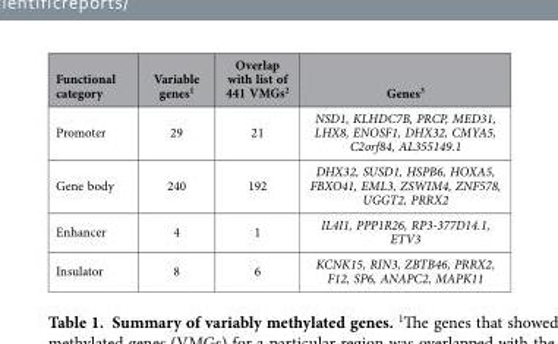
<table><thead><tr><td>Functional category</td><td>Variable genes<sup>1</sup></td><td>Overlap with list of 441 VMGs<sup>2</sup></td><td>Genes<sup>3</sup></td></tr></thead><tbody><tr><td>Promoter</td><td>29</td><td>21</td><td>NSD1, KLHDC7B, PRCP, MED31, LHX8, ENOSF1, DHX32, CMYA5, C2orf84, AL355149.1</td></tr><tr><td>Gene body</td><td>240</td><td>192</td><td>DHX32, SUSD1, HSPB6, HOXA5, FBXO41, EML3, ZSWIM4, ZNF578, UGGT2, PRRX2</td></tr><tr><td>Enhancer</td><td>4</td><td>1</td><td>IL4I1, PPP1R26, RP3-377D14.1, ETV3</td></tr><tr><td>Insulator</td><td>8</td><td>6</td><td>KCNK15, RIN3, ZBTB46, PRRX2, F12, SP6, ANAPC2, MAPK11</td></tr></tbody></table>